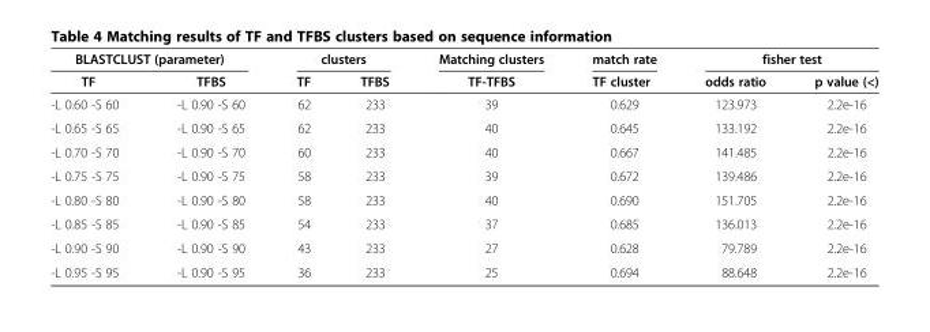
<table><thead><tr><td colspan="2">BLASTCLUST (parameter)</td><td colspan="2">clusters</td><td rowspan="2">Matching clusters TF-TFBS</td><td rowspan="2">match rate TF cluster</td><td colspan="2">fisher test</td></tr><tr><td>TF</td><td>TFBS</td><td>TF</td><td>TFBS</td><td>odds ratio</td><td>p value (&lt;)</td></tr></thead><tbody><tr><td>-L 0.60 -S 60</td><td>-L 0.90 -S 60</td><td>62</td><td>233</td><td>39</td><td>0.629</td><td>123.973</td><td>2.2e-16</td></tr><tr><td>-L 0.65 -S 65</td><td>-L 0.90 -S 65</td><td>62</td><td>233</td><td>40</td><td>0.645</td><td>133.192</td><td>2.2e-16</td></tr><tr><td>-L 0.70 -S 70</td><td>-L 0.90 -S 70</td><td>60</td><td>233</td><td>40</td><td>0.667</td><td>141.485</td><td>2.2e-16</td></tr><tr><td>-L 0.75 -S 75</td><td>-L 0.90 -S 75</td><td>58</td><td>233</td><td>39</td><td>0.672</td><td>139.486</td><td>2.2e-16</td></tr><tr><td>-L 0.80 -S 80</td><td>-L 0.90 -S 80</td><td>58</td><td>233</td><td>40</td><td>0.690</td><td>151.705</td><td>2.2e-16</td></tr><tr><td>-L 0.85 -S 85</td><td>-L 0.90 -S 85</td><td>54</td><td>233</td><td>37</td><td>0.685</td><td>136.013</td><td>2.2e-16</td></tr><tr><td>-L 0.90 -S 90</td><td>-L 0.90 -S 90</td><td>43</td><td>233</td><td>27</td><td>0.628</td><td>79.789</td><td>2.2e-16</td></tr><tr><td>-L 0.95 -S 95</td><td>-L 0.90 -S 95</td><td>36</td><td>233</td><td>25</td><td>0.694</td><td>88.648</td><td>2.2e-16</td></tr></tbody></table>